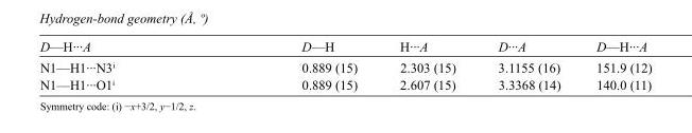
<table><tbody><tr><td>D—H···A</td><td>D—H</td><td>H···A</td><td>D···A</td><td>D—H···A</td></tr><tr><td>N1—H1···N3<sup>i</sup></td><td>0.889 (15)</td><td>2.303 (15)</td><td>3.1155 (16)</td><td>151.9 (12)</td></tr><tr><td>N1—H1···O1<sup>i</sup></td><td>0.889 (15)</td><td>2.607 (15)</td><td>3.3368 (14)</td><td>140.0 (11)</td></tr></tbody></table>